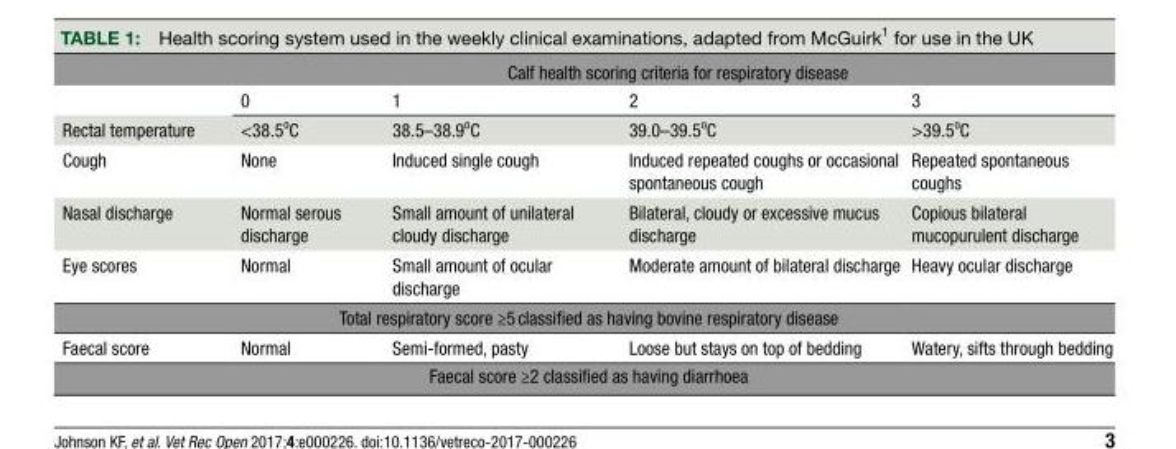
<table><thead><tr><td rowspan="2"></td><td colspan="4">Calf health scoring criteria for respiratory disease</td></tr><tr><td>0</td><td>1</td><td>2</td><td>3</td></tr></thead><tbody><tr><td>Rectal temperature</td><td>&lt;38.5<sup>o</sup>C</td><td>38.5–38.9<sup>o</sup>C</td><td>39.0–39.5<sup>o</sup>C</td><td>&gt;39.5<sup>o</sup>C</td></tr><tr><td>Cough</td><td>None</td><td>Induced single cough</td><td>Induced repeated coughs or occasional spontaneous cough</td><td>Repeated spontaneous coughs</td></tr><tr><td>Nasal discharge</td><td>Normal serous discharge</td><td>Small amount of unilateral cloudy discharge</td><td>Bilateral, cloudy or excessive mucus discharge</td><td>Copious bilateral mucopurulent discharge</td></tr><tr><td>Eye scores</td><td>Normal</td><td>Small amount of ocular discharge</td><td>Moderate amount of bilateral discharge</td><td>Heavy ocular discharge</td></tr><tr><td colspan="5">Total respiratory score ≥5 classified as having bovine respiratory disease</td></tr><tr><td>Faecal score</td><td>Normal</td><td>Semi-formed, pasty</td><td>Loose but stays on top of bedding</td><td>Watery, sifts through bedding</td></tr><tr><td colspan="5">Faecal score ≥2 classified as having diarrhoea</td></tr></tbody></table>